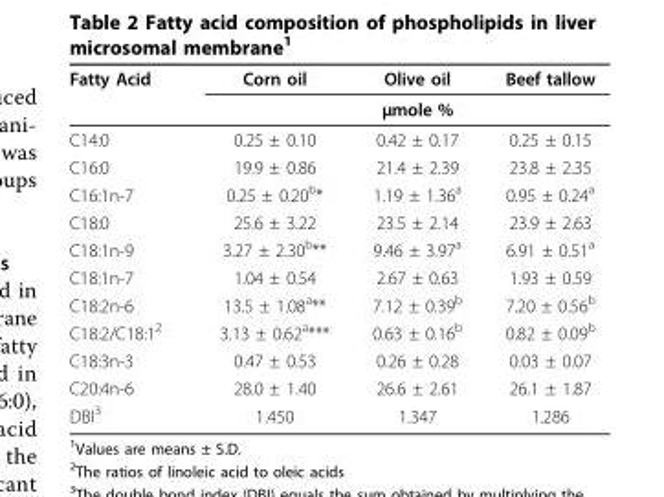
<table><thead><tr><td rowspan="2">Fatty Acid</td><td rowspan="2">Corn oil</td><td rowspan="2">Olive oil μmole %</td><td rowspan="2">Beef tallow</td></tr><tr></tr></thead><tbody><tr><td>C14:0</td><td>0.25 ± 0.10</td><td>0.42 ± 0.17</td><td>0.25 ± 0.15</td></tr><tr><td>C16:0</td><td>19.9 ± 0.86</td><td>21.4 ± 2.39</td><td>23.8 ± 2.35</td></tr><tr><td>C16:1n-7</td><td>0.25 ± 0.20<sup>b</sup>*</td><td>1.19 ± 1.36<sup>a</sup></td><td>0.95 ± 0.24<sup>a</sup></td></tr><tr><td>C18:0</td><td>25.6 ± 3.22</td><td>23.5 ± 2.14</td><td>23.9 ± 2.63</td></tr><tr><td>C18:1n-9</td><td>3.27 ± 2.30<sup>b</sup>**</td><td>9.46 ± 3.97<sup>a</sup></td><td>6.91 ± 0.51<sup>a</sup></td></tr><tr><td>C18:1n-7</td><td>1.04 ± 0.54</td><td>2.67 ± 0.63</td><td>1.93 ± 0.59</td></tr><tr><td>C18:2n-6</td><td>13.5 ± 1.08<sup>a</sup>**</td><td>7.12 ± 0.39<sup>b</sup></td><td>7.20 ± 0.56<sup>b</sup></td></tr><tr><td>C18:2/C18:1<sup>2</sup></td><td>3.13 ± 0.62<sup>a</sup>***</td><td>0.63 ± 0.16<sup>b</sup></td><td>0.82 ± 0.09<sup>b</sup></td></tr><tr><td>C18:3n-3</td><td>0.47 ± 0.53</td><td>0.26 ± 0.28</td><td>0.03 ± 0.07</td></tr><tr><td>C20:4n-6</td><td>28.0 ± 1.40</td><td>26.6 ± 2.61</td><td>26.1 ± 1.87</td></tr><tr><td>DBI<sup>3</sup></td><td>1.450</td><td>1.347</td><td>1.286</td></tr></tbody></table>